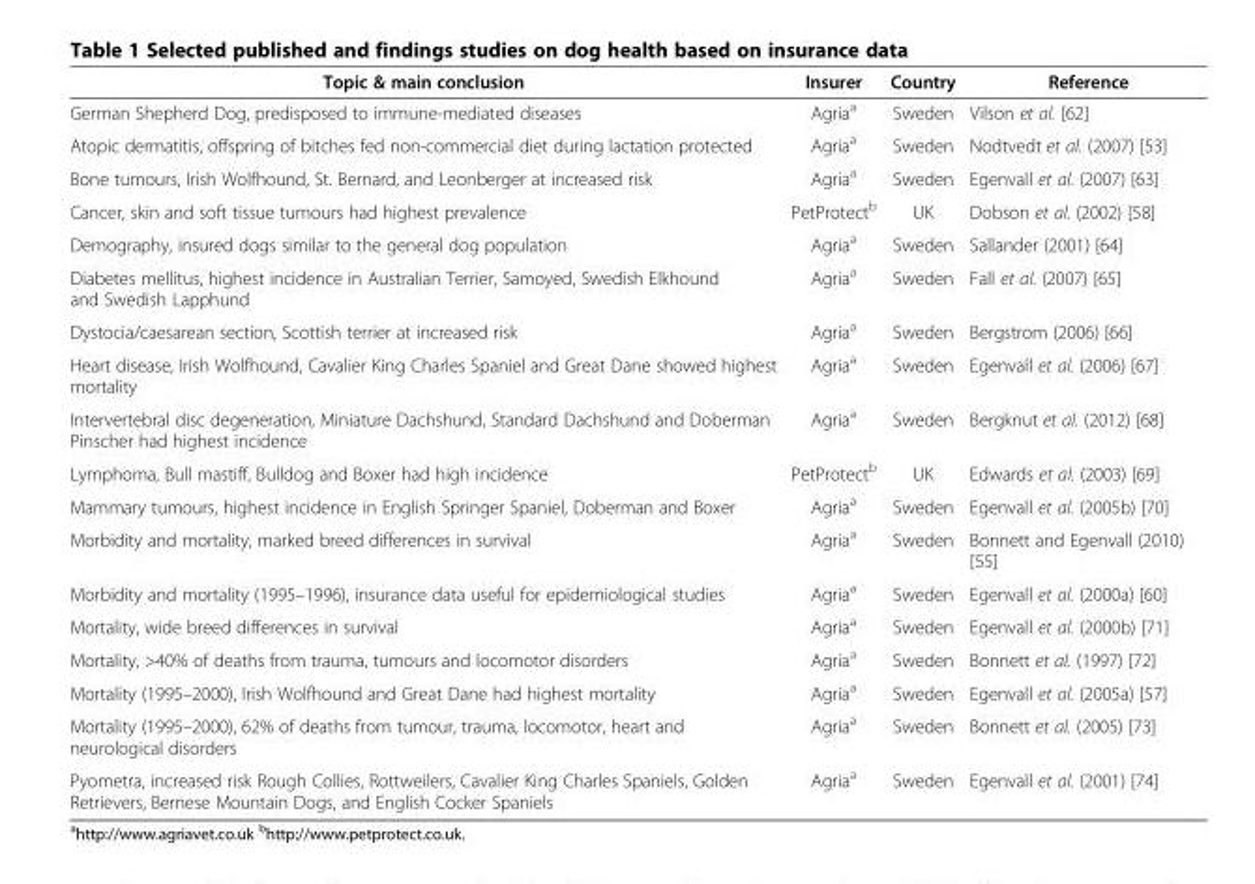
<table><thead><tr><td>Topic &amp; main conclusion</td><td>Insurer</td><td>Country</td><td>Reference</td></tr></thead><tbody><tr><td>German Shepherd Dog, predisposed to immune-mediated diseases</td><td>Agria<sup>a</sup></td><td>Sweden</td><td>Vilson et al. [62]</td></tr><tr><td>Atopic dermatitis, offspring of bitches fed non-commercial diet during lactation protected</td><td>Agria<sup>a</sup></td><td>Sweden</td><td>Nodtvedt et al. (2007) [53]</td></tr><tr><td>Bone tumours, Irish Wolfhound, St. Bernard, and Leonberger at increased risk</td><td>Agria<sup>a</sup></td><td>Sweden</td><td>Egenvall et al. (2007) [63]</td></tr><tr><td>Cancer, skin and soft tissue tumours had highest prevalence</td><td>PetProtect<sup>b</sup></td><td>UK</td><td>Dobson et al. (2002) [58]</td></tr><tr><td>Demography, insured dogs similar to the general dog population</td><td>Agria<sup>a</sup></td><td>Sweden</td><td>Sallander (2001) [64]</td></tr><tr><td>Diabetes mellitus, highest incidence in Australian Terrier, Samoyed, Swedish Elkhound and Swedish Lapphund</td><td>Agria<sup>a</sup></td><td>Sweden</td><td>Fall et al. (2007) [65]</td></tr><tr><td>Dystocia/caesarean section, Scottish terrier at increased risk</td><td>Agria<sup>a</sup></td><td>Sweden</td><td>Bergstrom (2006) [66]</td></tr><tr><td>Heart disease, Irish Wolfhound, Cavalier King Charles Spaniel and Great Dane showed highest mortality</td><td>Agria<sup>a</sup></td><td>Sweden</td><td>Egenvall et al. (2006) [67]</td></tr><tr><td>Intervertebral disc degeneration, Miniature Dachshund, Standard Dachshund and Doberman Pinscher had highest incidence</td><td>Agria<sup>a</sup></td><td>Sweden</td><td>Bergknut et al. (2012) [68]</td></tr><tr><td>Lymphoma, Bull mastiff, Bulldog and Boxer had high incidence</td><td>PetProtect<sup>b</sup></td><td>UK</td><td>Edwards et al. (2003) [69]</td></tr><tr><td>Mammary tumours, highest incidence in English Springer Spaniel, Doberman and Boxer</td><td>Agria<sup>a</sup></td><td>Sweden</td><td>Egenvall et al. (2005b) [70]</td></tr><tr><td>Morbidity and mortality, marked breed differences in survival</td><td>Agria<sup>a</sup></td><td>Sweden</td><td>Bonnett and Egenvall (2010) [55]</td></tr><tr><td>Morbidity and mortality (1995–1996), insurance data useful for epidemiological studies</td><td>Agria<sup>a</sup></td><td>Sweden</td><td>Egenvall et al. (2000a) [60]</td></tr><tr><td>Mortality, wide breed differences in survival</td><td>Agria<sup>a</sup></td><td>Sweden</td><td>Egenvall et al. (2000b) [71]</td></tr><tr><td>Mortality, &gt;40% of deaths from trauma, tumours and locomotor disorders</td><td>Agria<sup>a</sup></td><td>Sweden</td><td>Bonnett et al. (1997) [72]</td></tr><tr><td>Mortality (1995–2000), Irish Wolfhound and Great Dane had highest mortality</td><td>Agria<sup>a</sup></td><td>Sweden</td><td>Egenvall et al. (2005a) [57]</td></tr><tr><td>Mortality (1995–2000), 62% of deaths from tumour, trauma, locomotor, heart and neurological disorders</td><td>Agria<sup>a</sup></td><td>Sweden</td><td>Bonnett et al. (2005) [73]</td></tr><tr><td>Pyometra, increased risk Rough Collies, Rottweilers, Cavalier King Charles Spaniels, Golden Retrievers, Bernese Mountain Dogs, and English Cocker Spaniels</td><td>Agria<sup>a</sup></td><td>Sweden</td><td>Egenvall et al. (2001) [74]</td></tr></tbody></table>